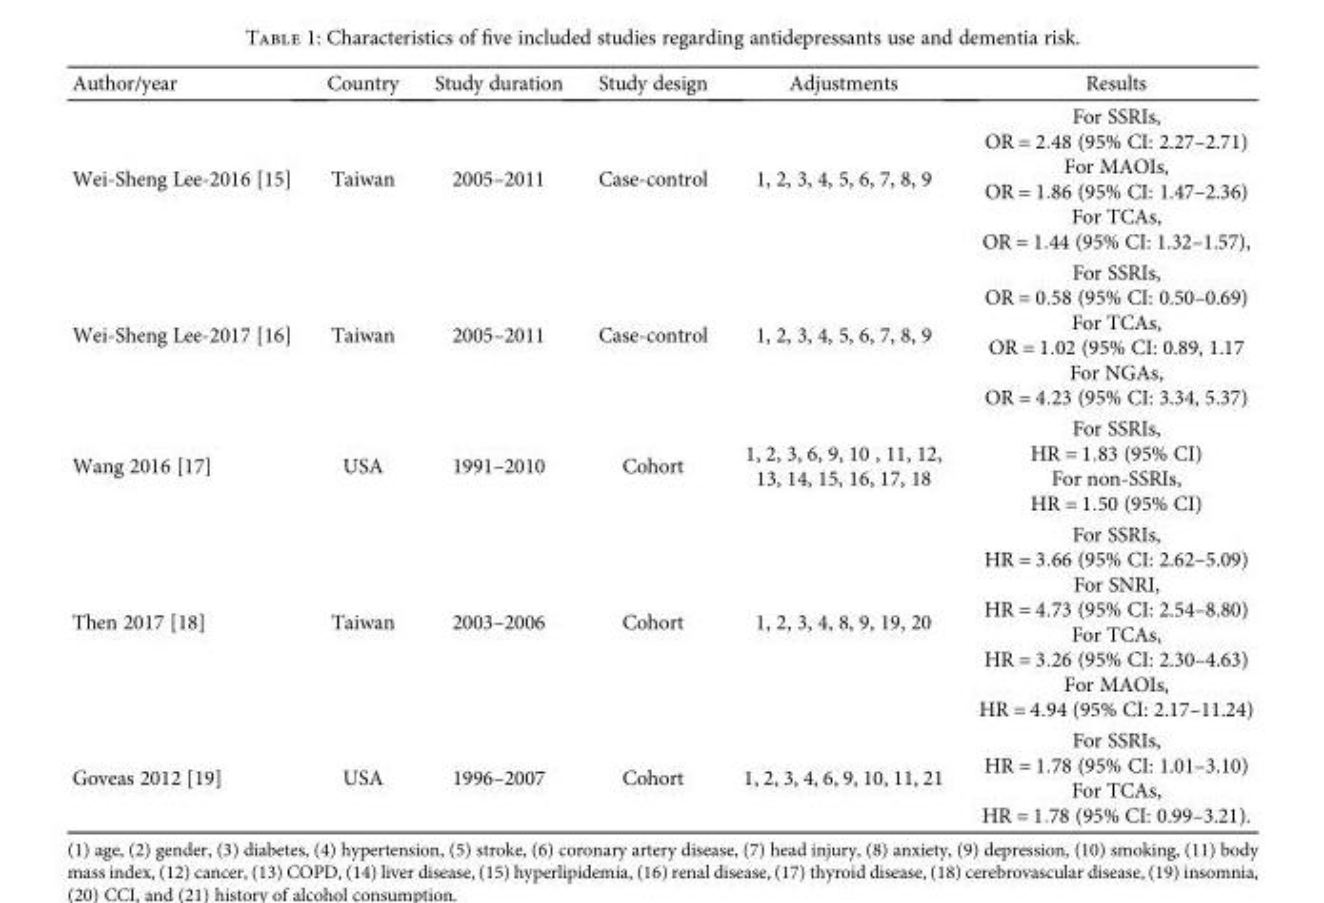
<table><thead><tr><td>Author/year</td><td>Country</td><td>Study duration</td><td>Study design</td><td>Adjustments</td><td>Results</td></tr></thead><tbody><tr><td>Wei-Sheng Lee-2016 [15]</td><td>Taiwan</td><td>2005–2011</td><td>Case-control</td><td>1, 2, 3, 4, 5, 6, 7, 8, 9</td><td>For SSRIs, OR = 2 48 (95% CI: 2.27–2.71) For MAOIs, OR = 1 86 (95% CI: 1.47–2.36) For TCAs, OR = 1 44 (95% CI: 1.32–1.57),</td></tr><tr><td>Wei-Sheng Lee-2017 [16]</td><td>Taiwan</td><td>2005–2011</td><td>Case-control</td><td>1, 2, 3, 4, 5, 6, 7, 8, 9</td><td>For SSRIs, OR = 0 58 (95% CI: 0.50–0.69) For TCAs, OR = 1 02 (95% CI: 0.89, 1.17 For NGAs, OR = 4 23 (95% CI: 3.34, 5.37)</td></tr><tr><td>Wang 2016 [17]</td><td>USA</td><td>1991–2010</td><td>Cohort</td><td>1, 2, 3, 6, 9, 10 , 11, 12, 13, 14, 15, 16, 17, 18</td><td>For SSRIs, HR = 1 83 (95% CI) For non-SSRIs, HR = 1 50 (95% CI)</td></tr><tr><td>Then 2017 [18]</td><td>Taiwan</td><td>2003–2006</td><td>Cohort</td><td>1, 2, 3, 4, 8, 9, 19, 20</td><td>For SSRIs, HR = 3 66 (95% CI: 2.62–5.09) For SNRI, HR = 4 73 (95% CI: 2.54–8.80) For TCAs, HR = 3 26 (95% CI: 2.30–4.63) For MAOIs, HR = 4 94 (95% CI: 2.17–11.24)</td></tr><tr><td>Goveas 2012 [19]</td><td>USA</td><td>1996–2007</td><td>Cohort</td><td>1, 2, 3, 4, 6, 9, 10, 11, 21</td><td>For SSRIs, HR = 1 78 (95% CI: 1.01–3.10) For TCAs, HR = 1 78 (95% CI: 0.99–3.21).</td></tr></tbody></table>